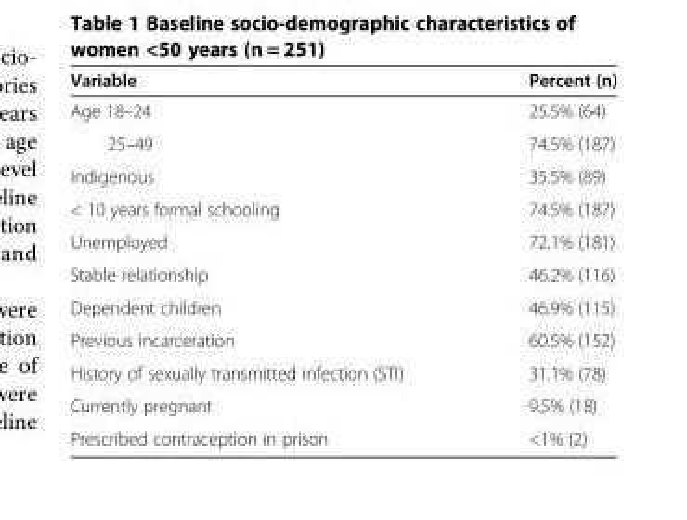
<table><thead><tr><td>Variable</td><td>Percent (n)</td></tr></thead><tbody><tr><td>Age 18–24</td><td>25.5% (64)</td></tr><tr><td>25–49</td><td>74.5% (187)</td></tr><tr><td>Indigenous</td><td>35.5% (89)</td></tr><tr><td>&lt; 10 years formal schooling</td><td>74.5% (187)</td></tr><tr><td>Unemployed</td><td>72.1% (181)</td></tr><tr><td>Stable relationship</td><td>46.2% (116)</td></tr><tr><td>Dependent children</td><td>46.9% (115)</td></tr><tr><td>Previous incarceration</td><td>60.5% (152)</td></tr><tr><td>History of sexually transmitted infection (STI)</td><td>31.1% (78)</td></tr><tr><td>Currently pregnant</td><td>9.5% (18)</td></tr><tr><td>Prescribed contraception in prison</td><td>&lt;1% (2)</td></tr></tbody></table>